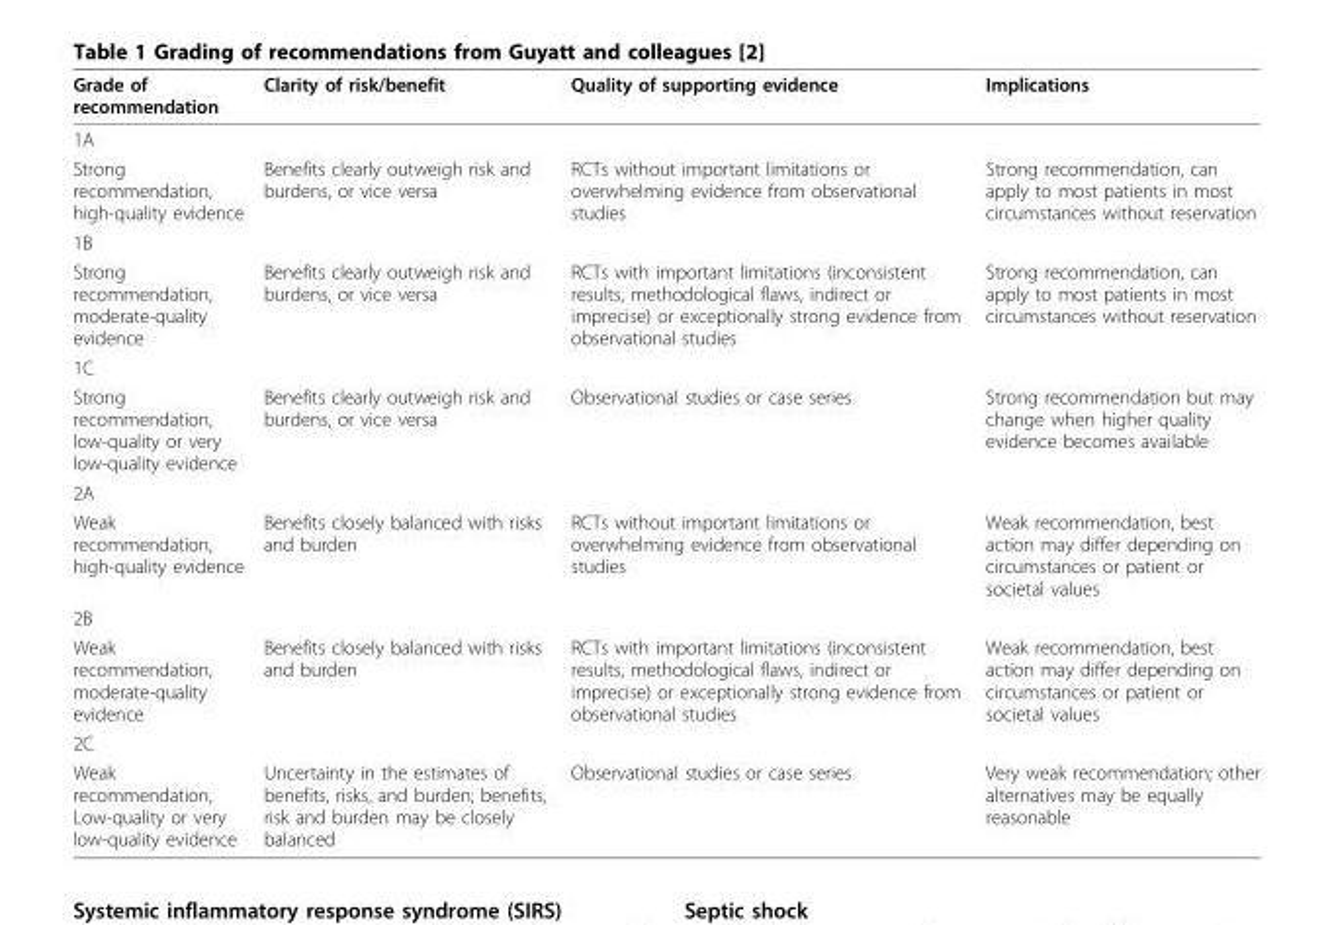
<table><thead><tr><td>Grade of recommendation</td><td>Clarity of risk/benefit</td><td>Quality of supporting evidence</td><td>Implications</td></tr></thead><tbody><tr><td colspan="4">1A</td></tr><tr><td>Strong recommendation, high-quality evidence</td><td>Benefits clearly outweigh risk and burdens, or vice versa</td><td>RCTs without important limitations or overwhelming evidence from observational studies</td><td>Strong recommendation, can apply to most patients in most circumstances without reservation</td></tr><tr><td colspan="4">1B</td></tr><tr><td>Strong recommendation, moderate-quality evidence</td><td>Benefits clearly outweigh risk and burdens, or vice versa</td><td>RCTs with important limitations (inconsistent results, methodological flaws, indirect or imprecise) or exceptionally strong evidence from observational studies</td><td>Strong recommendation, can apply to most patients in most circumstances without reservation</td></tr><tr><td colspan="4">1C</td></tr><tr><td>Strong recommendation, low-quality or very low-quality evidence</td><td>Benefits clearly outweigh risk and burdens, or vice versa</td><td>Observational studies or case series</td><td>Strong recommendation but may change when higher quality evidence becomes available</td></tr><tr><td colspan="4">2A</td></tr><tr><td>Weak recommendation, high-quality evidence</td><td>Benefits closely balanced with risks and burden</td><td>RCTs without important limitations or overwhelming evidence from observational studies</td><td>Weak recommendation, best action may differ depending on circumstances or patient or societal values</td></tr><tr><td colspan="4">2B</td></tr><tr><td>Weak recommendation, moderate-quality evidence</td><td>Benefits closely balanced with risks and burden</td><td>RCTs with important limitations (inconsistent results, methodological flaws, indirect or imprecise) or exceptionally strong evidence from observational studies</td><td>Weak recommendation, best action may differ depending on circumstances or patient or societal values</td></tr><tr><td colspan="4">2C</td></tr><tr><td>Weak recommendation, Low-quality or very low-quality evidence</td><td>Uncertainty in the estimates of benefits, risks, and burden; benefits, risk and burden may be closely balanced</td><td>Observational studies or case series</td><td>Very weak recommendation; other alternatives may be equally reasonable</td></tr></tbody></table>